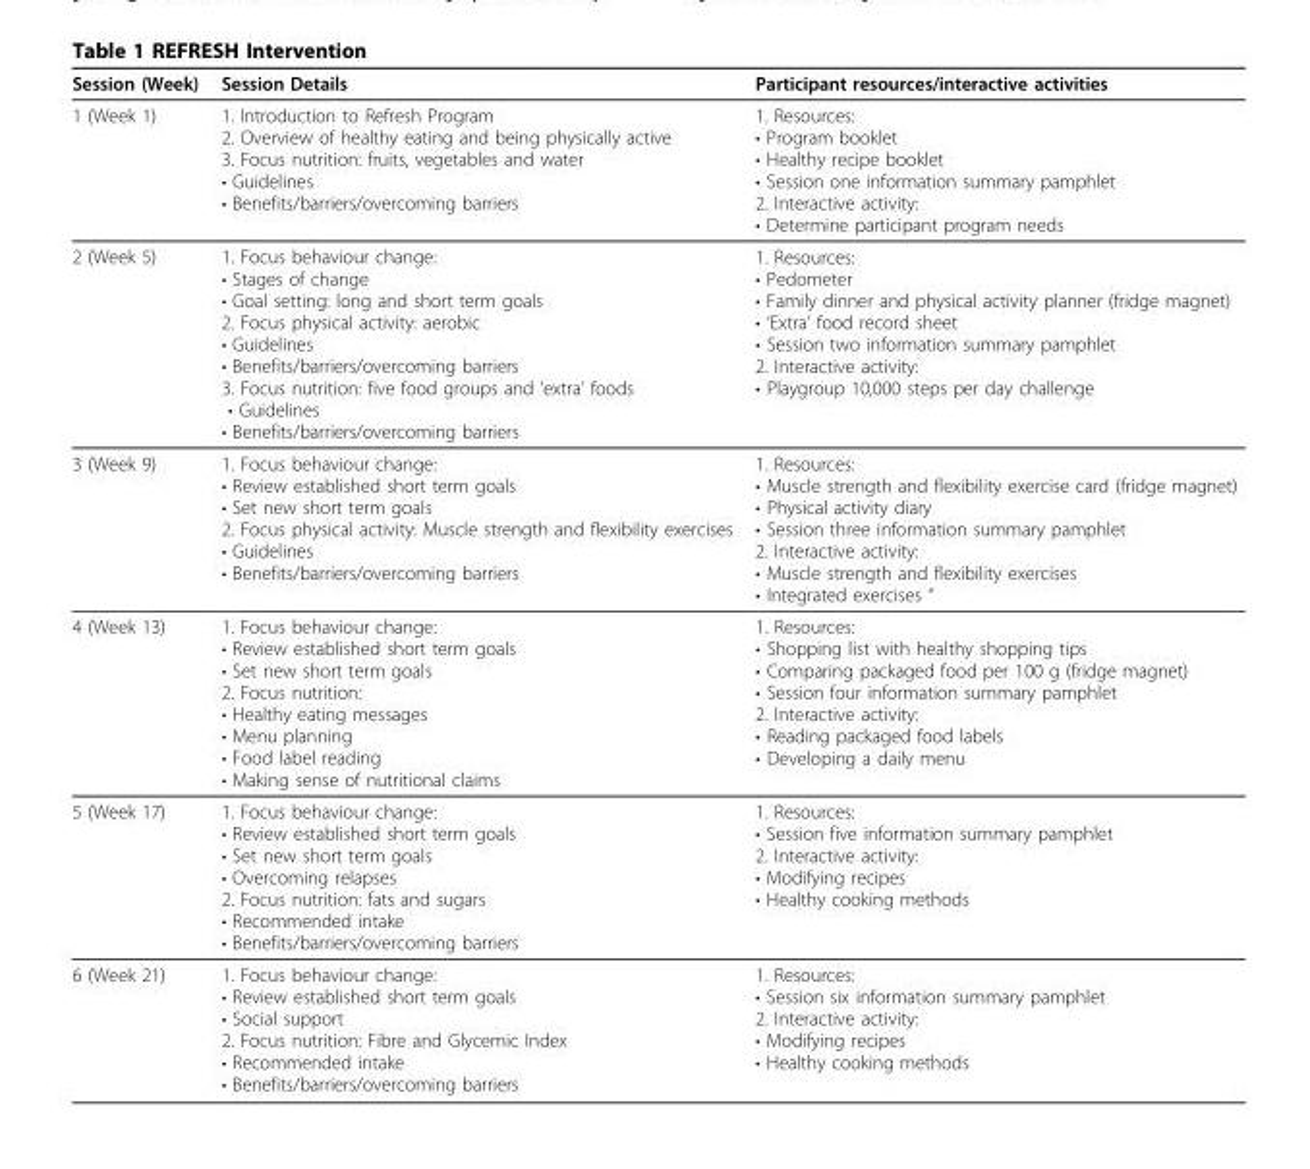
<table><thead><tr><td>Session (Week)</td><td>Session Details</td><td>Participant resources/interactive activities</td></tr></thead><tbody><tr><td>1 (Week 1)</td><td>1. Introduction to Refresh Program 2. Overview of healthy eating and being physically active 3. Focus nutrition: fruits, vegetables and water • Guidelines • Benefits/barriers/overcoming barriers</td><td>1. Resources: • Program booklet • Healthy recipe booklet • Session one information summary pamphlet 2. Interactive activity: • Determine participant program needs</td></tr><tr><td>2 (Week 5)</td><td>1. Focus behaviour change: • Stages of change • Goal setting: long and short term goals 2. Focus physical activity: aerobic • Guidelines • Benefits/barriers/overcoming barriers 3. Focus nutrition: five food groups and ‘extra’ foods • Guidelines • Benefits/barriers/overcoming barriers</td><td>1. Resources: • Pedometer • Family dinner and physical activity planner (fridge magnet) • ‘Extra’ food record sheet • Session two information summary pamphlet 2. Interactive activity: • Playgroup 10,000 steps per day challenge</td></tr><tr><td>3 (Week 9)</td><td>1. Focus behaviour change: • Review established short term goals • Set new short term goals 2. Focus physical activity: Muscle strength and flexibility exercises • Guidelines • Benefits/barriers/overcoming barriers</td><td>1. Resources: • Muscle strength and flexibility exercise card (fridge magnet) • Physical activity diary • Session three information summary pamphlet 2. Interactive activity: • Muscle strength and flexibility exercises • Integrated exercises “</td></tr><tr><td>4 (Week 13)</td><td>1. Focus behaviour change: • Review established short term goals • Set new short term goals 2. Focus nutrition: • Healthy eating messages • Menu planning • Food label reading • Making sense of nutritional claims</td><td>1. Resources: • Shopping list with healthy shopping tips • Comparing packaged food per 100 g (fridge magnet) • Session four information summary pamphlet 2. Interactive activity: • Reading packaged food labels • Developing a daily menu</td></tr><tr><td>5 (Week 17)</td><td>1. Focus behaviour change: • Review established short term goals • Set new short term goals • Overcoming relapses 2. Focus nutrition: fats and sugars • Recommended intake • Benefits/barriers/overcoming barriers</td><td>1. Resources: • Session five information summary pamphlet 2. Interactive activity: • Modifying recipes • Healthy cooking methods</td></tr><tr><td>6 (Week 21)</td><td>1. Focus behaviour change: • Review established short term goals • Social support 2. Focus nutrition: Fibre and Glycemic Index • Recommended intake • Benefits/barriers/overcoming barriers</td><td>1. Resources: • Session six information summary pamphlet 2. Interactive activity: • Modifying recipes • Healthy cooking methods</td></tr></tbody></table>